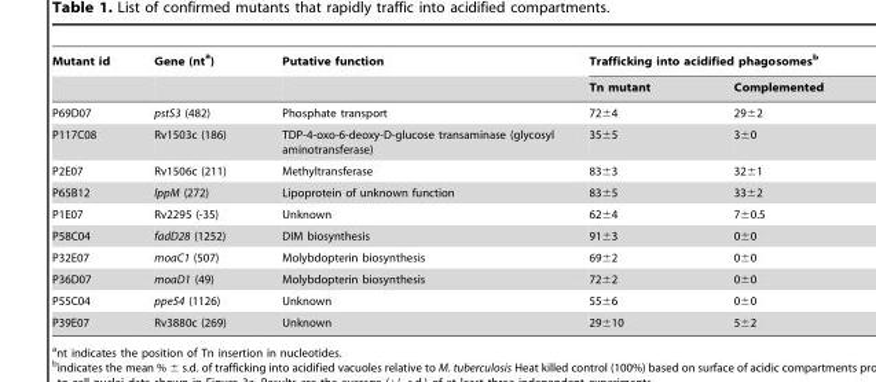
<table><thead><tr><td rowspan="2">Mutant id</td><td rowspan="2">Gene (nt <sup>a</sup>)</td><td rowspan="2">Putative function</td><td colspan="2">Trafficking into acidified phagosomes<sup>b</sup></td></tr><tr><td>Tn mutant</td><td>Complemented</td></tr></thead><tbody><tr><td>P69D07</td><td>pstS3 (482)</td><td>Phosphate transport</td><td>72±4</td><td>29±2</td></tr><tr><td>P117C08</td><td>Rv1503c (186)</td><td>TDP-4-oxo-6-deoxy-D-glucose transaminase (glycosyl aminotransferase)</td><td>35±5</td><td>3±0</td></tr><tr><td>P2E07</td><td>Rv1506c (211)</td><td>Methyltransferase</td><td>83±3</td><td>32±1</td></tr><tr><td>P65B12</td><td>lppM (272)</td><td>Lipoprotein of unknown function</td><td>83±5</td><td>33±2</td></tr><tr><td>P1E07</td><td>Rv2295 (-35)</td><td>Unknown</td><td>62±4</td><td>7±0.5</td></tr><tr><td>P58C04</td><td>fadD28 (1252)</td><td>DIM biosynthesis</td><td>91±3</td><td>0±0</td></tr><tr><td>P32E07</td><td>moaC1 (507)</td><td>Molybdopterin biosynthesis</td><td>69±2</td><td>0±0</td></tr><tr><td>P36D07</td><td>moaD1 (49)</td><td>Molybdopterin biosynthesis</td><td>72±2</td><td>0±0</td></tr><tr><td>P55C04</td><td>ppe54 (1126)</td><td>Unknown</td><td>55±6</td><td>0±0</td></tr><tr><td>P39E07</td><td>Rv3880c (269)</td><td>Unknown</td><td>29±10</td><td>5±2</td></tr></tbody></table>